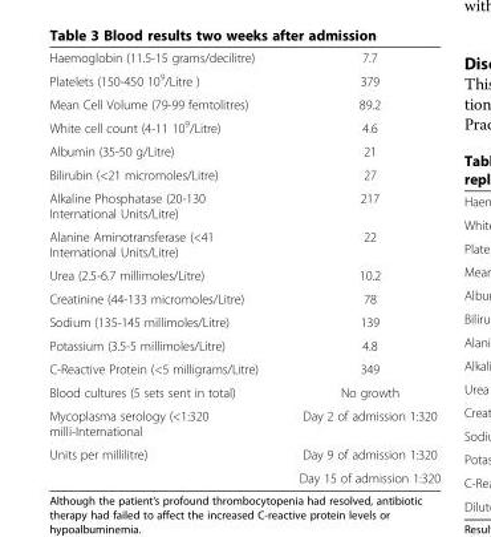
<table><tbody><tr><td>Haemoglobin (11.5-15 grams/decilitre)</td><td>7.7</td></tr><tr><td>Platelets (150-450 10<sup>9</sup>/Litre )</td><td>379</td></tr><tr><td>Mean Cell Volume (79-99 femtolitres)</td><td>89.2</td></tr><tr><td>White cell count (4-11 10<sup>9</sup>/Litre)</td><td>4.6</td></tr><tr><td>Albumin (35-50 g/Litre)</td><td>21</td></tr><tr><td>Bilirubin (&lt;21 micromoles/Litre)</td><td>27</td></tr><tr><td>Alkaline Phosphatase (20-130 International Units/Litre)</td><td>217</td></tr><tr><td>Alanine Aminotransferase (&lt;41 International Units/Litre)</td><td>22</td></tr><tr><td>Urea (2.5-6.7 millimoles/Litre)</td><td>10.2</td></tr><tr><td>Creatinine (44-133 micromoles/Litre)</td><td>78</td></tr><tr><td>Sodium (135-145 millimoles/Litre)</td><td>139</td></tr><tr><td>Potassium (3.5-5 millimoles/Litre)</td><td>4.8</td></tr><tr><td>C-Reactive Protein (&lt;5 milligrams/Litre)</td><td>349</td></tr><tr><td>Blood cultures (5 sets sent in total)</td><td>No growth</td></tr><tr><td>Mycoplasma serology (&lt;1:320 milli-International</td><td>Day 2 of admission 1:320</td></tr><tr><td rowspan="2">Units per millilitre)</td><td>Day 9 of admission 1:320</td></tr><tr><td>Day 15 of admission 1:320</td></tr></tbody></table>